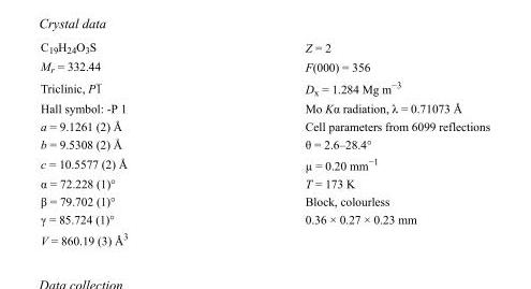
<table><tbody><tr><td>C<sub>19</sub>H<sub>24</sub>O<sub>3</sub>S</td><td>Z = 2</td></tr><tr><td>M<sub>r</sub> = 332.44</td><td>F(000) = 356</td></tr><tr><td>Triclinic, P1</td><td>D<sub>x</sub> = 1.284 Mg m<sup>−3</sup></td></tr><tr><td>Hall symbol: -P 1</td><td>Mo Kα radiation, λ = 0.71073 Å</td></tr><tr><td>a = 9.1261 (2) Å</td><td>Cell parameters from 6099 reflections</td></tr><tr><td>b = 9.5308 (2) Å</td><td>θ = 2.6–28.4°</td></tr><tr><td>c = 10.5577 (2) Å</td><td>µ = 0.20 mm<sup>−1</sup></td></tr><tr><td>α = 72.228 (1)°</td><td>T = 173 K</td></tr><tr><td>β = 79.702 (1)°</td><td>Block, colourless</td></tr><tr><td>γ = 85.724 (1)°</td><td>0.36 × 0.27 × 0.23 mm</td></tr><tr><td>V = 860.19 (3) Å<sup>3</sup></td><td></td></tr></tbody></table>